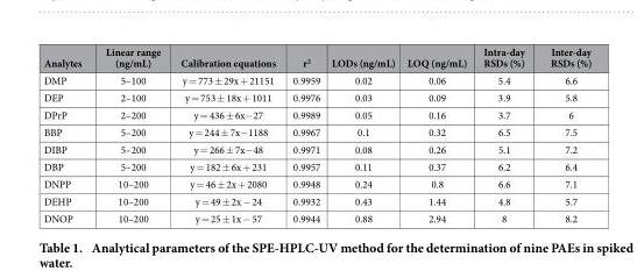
<table><thead><tr><td>Analytes</td><td>Linear range (ng/mL)</td><td>Calibration equations</td><td>r<sup>2</sup></td><td>LODs (ng/mL)</td><td>LOQ (ng/mL)</td><td>Intra-day RSDs (%)</td><td>Inter-day RSDs (%)</td></tr></thead><tbody><tr><td>DMP</td><td>5–100</td><td>y = 773 ± 29x + 21151</td><td>0.9959</td><td>0.02</td><td>0.06</td><td>5.4</td><td>6.6</td></tr><tr><td>DEP</td><td>2–100</td><td>y = 753 ± 18x + 1011</td><td>0.9976</td><td>0.03</td><td>0.09</td><td>3.9</td><td>5.8</td></tr><tr><td>DPrP</td><td>2–200</td><td>y = 436 ± 6x−27</td><td>0.9989</td><td>0.05</td><td>0.16</td><td>3.7</td><td>6</td></tr><tr><td>BBP</td><td>5–200</td><td>y = 244 ± 7x−1188</td><td>0.9967</td><td>0.1</td><td>0.32</td><td>6.5</td><td>7.5</td></tr><tr><td>DIBP</td><td>5–200</td><td>y = 266 ± 7x−48</td><td>0.9971</td><td>0.08</td><td>0.26</td><td>5.1</td><td>7.2</td></tr><tr><td>DBP</td><td>5–200</td><td>y = 182 ± 6x + 231</td><td>0.9957</td><td>0.11</td><td>0.37</td><td>6.2</td><td>6.4</td></tr><tr><td>DNPP</td><td>10–200</td><td>y = 46 ± 2x + 2080</td><td>0.9948</td><td>0.24</td><td>0.8</td><td>6.6</td><td>7.1</td></tr><tr><td>DEHP</td><td>10–200</td><td>y = 49 ± 2x − 24</td><td>0.9932</td><td>0.43</td><td>1.44</td><td>4.8</td><td>5.7</td></tr><tr><td>DNOP</td><td>10–200</td><td>y = 25 ± 1x − 57</td><td>0.9944</td><td>0.88</td><td>2.94</td><td>8</td><td>8.2</td></tr></tbody></table>